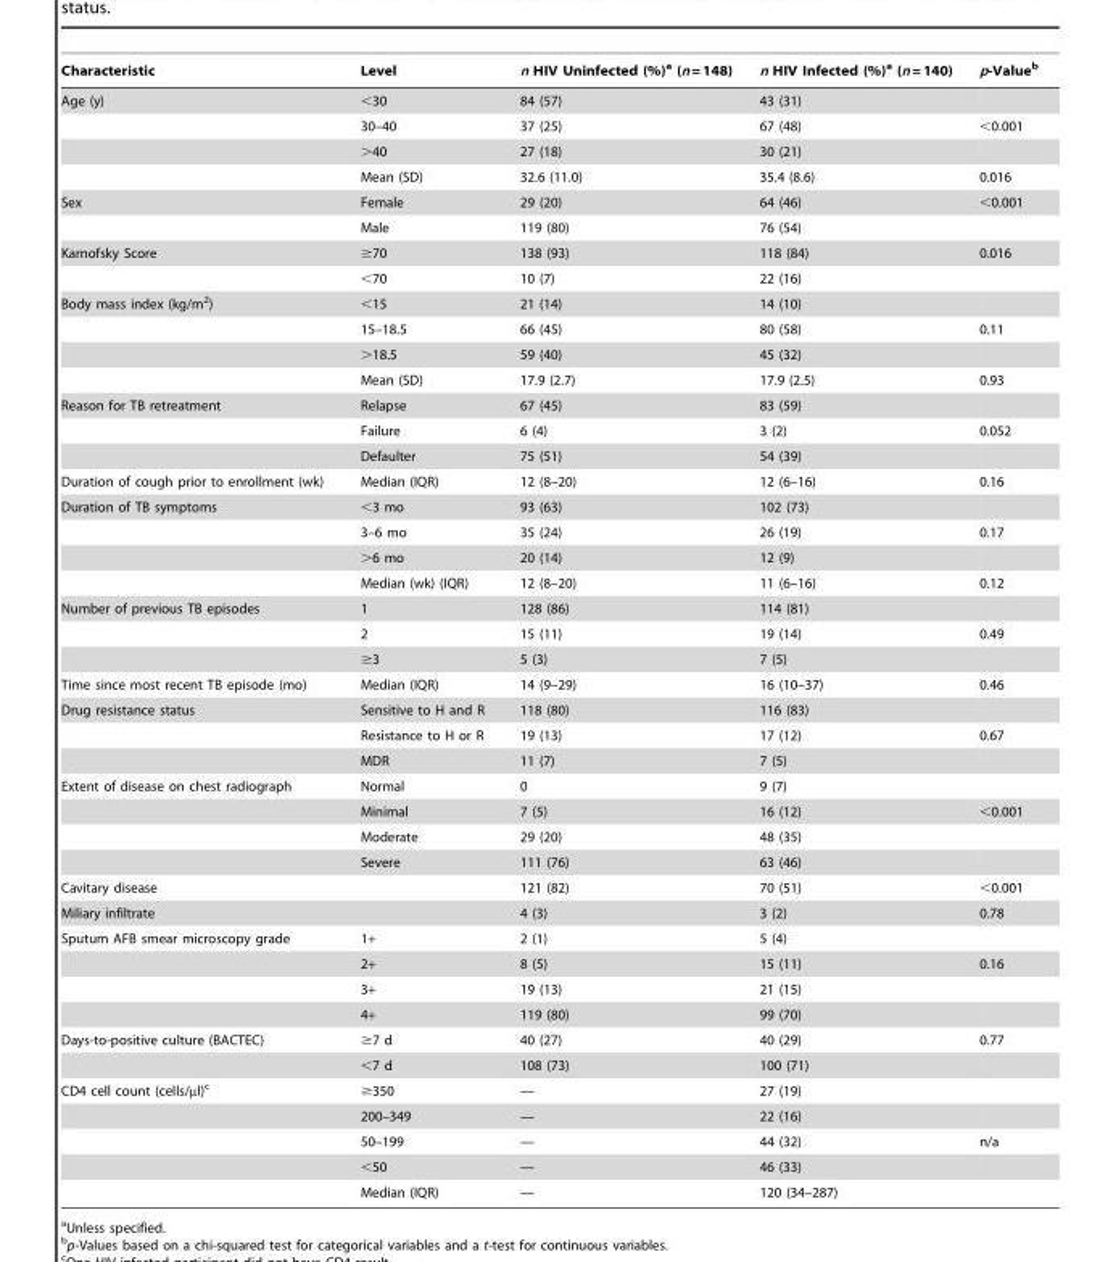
<table><thead><tr><td>Characteristic</td><td>Level</td><td>n HIV Uninfected (%)<sup>a</sup> (n = 148)</td><td>n HIV Infected (%)<sup>a</sup> (n = 140)</td><td>p-Value<sup>b</sup></td></tr></thead><tbody><tr><td rowspan="4">Age (y)</td><td>&lt;30</td><td>84 (57)</td><td>43 (31)</td><td></td></tr><tr><td>30–40</td><td>37 (25)</td><td>67 (48)</td><td>&lt;0.001</td></tr><tr><td>&gt;40</td><td>27 (18)</td><td>30 (21)</td><td></td></tr><tr><td>Mean (SD)</td><td>32.6 (11.0)</td><td>35.4 (8.6)</td><td>0.016</td></tr><tr><td rowspan="2">Sex</td><td>Female</td><td>29 (20)</td><td>64 (46)</td><td>&lt;0.001</td></tr><tr><td>Male</td><td>119 (80)</td><td>76 (54)</td><td></td></tr><tr><td rowspan="2">Karnofsky Score</td><td>≥70</td><td>138 (93)</td><td>118 (84)</td><td>0.016</td></tr><tr><td>&lt;70</td><td>10 (7)</td><td>22 (16)</td><td></td></tr><tr><td rowspan="4">Body mass index (kg/m<sup>2</sup>)</td><td>&lt;15</td><td>21 (14)</td><td>14 (10)</td><td></td></tr><tr><td>15–18.5</td><td>66 (45)</td><td>80 (58)</td><td>0.11</td></tr><tr><td>&gt;18.5</td><td>59 (40)</td><td>45 (32)</td><td></td></tr><tr><td>Mean (SD)</td><td>17.9 (2.7)</td><td>17.9 (2.5)</td><td>0.93</td></tr><tr><td rowspan="3">Reason for TB retreatment</td><td>Relapse</td><td>67 (45)</td><td>83 (59)</td><td></td></tr><tr><td>Failure</td><td>6 (4)</td><td>3 (2)</td><td>0.052</td></tr><tr><td>Defaulter</td><td>75 (51)</td><td>54 (39)</td><td></td></tr><tr><td>Duration of cough prior to enrollment (wk)</td><td>Median (IQR)</td><td>12 (8–20)</td><td>12 (6–16)</td><td>0.16</td></tr><tr><td rowspan="4">Duration of TB symptoms</td><td>&lt;3 mo</td><td>93 (63)</td><td>102 (73)</td><td></td></tr><tr><td>3–6 mo</td><td>35 (24)</td><td>26 (19)</td><td>0.17</td></tr><tr><td>&gt;6 mo</td><td>20 (14)</td><td>12 (9)</td><td></td></tr><tr><td>Median (wk) (IQR)</td><td>12 (8–20)</td><td>11 (6–16)</td><td>0.12</td></tr><tr><td rowspan="3">Number of previous TB episodes</td><td>1</td><td>128 (86)</td><td>114 (81)</td><td></td></tr><tr><td>2</td><td>15 (11)</td><td>19 (14)</td><td>0.49</td></tr><tr><td>≥3</td><td>5 (3)</td><td>7 (5)</td><td></td></tr><tr><td>Time since most recent TB episode (mo)</td><td>Median (IQR)</td><td>14 (9–29)</td><td>16 (10–37)</td><td>0.46</td></tr><tr><td rowspan="3">Drug resistance status</td><td>Sensitive to H and R</td><td>118 (80)</td><td>116 (83)</td><td></td></tr><tr><td>Resistance to H or R</td><td>19 (13)</td><td>17 (12)</td><td>0.67</td></tr><tr><td>MDR</td><td>11 (7)</td><td>7 (5)</td><td></td></tr><tr><td rowspan="4">Extent of disease on chest radiograph</td><td>Normal</td><td>0</td><td>9 (7)</td><td></td></tr><tr><td>Minimal</td><td>7 (5)</td><td>16 (12)</td><td>&lt;0.001</td></tr><tr><td>Moderate</td><td>29 (20)</td><td>48 (35)</td><td></td></tr><tr><td>Severe</td><td>111 (76)</td><td>63 (46)</td><td></td></tr><tr><td>Cavitary disease</td><td></td><td>121 (82)</td><td>70 (51)</td><td>&lt;0.001</td></tr><tr><td>Miliary infiltrate</td><td></td><td>4 (3)</td><td>3 (2)</td><td>0.78</td></tr><tr><td rowspan="4">Sputum AFB smear microscopy grade</td><td>1+</td><td>2 (1)</td><td>5 (4)</td><td></td></tr><tr><td>2+</td><td>8 (5)</td><td>15 (11)</td><td>0.16</td></tr><tr><td>3+</td><td>19 (13)</td><td>21 (15)</td><td></td></tr><tr><td>4+</td><td>119 (80)</td><td>99 (70)</td><td></td></tr><tr><td rowspan="2">Days-to-positive culture (BACTEC)</td><td>≥7 d</td><td>40 (27)</td><td>40 (29)</td><td>0.77</td></tr><tr><td>&lt;7 d</td><td>108 (73)</td><td>100 (71)</td><td></td></tr><tr><td rowspan="5">CD4 cell count (cells/µl)<sup>c</sup></td><td>≥350</td><td>—</td><td>27 (19)</td><td></td></tr><tr><td>200–349</td><td>—</td><td>22 (16)</td><td></td></tr><tr><td>50–199</td><td>—</td><td>44 (32)</td><td>n/a</td></tr><tr><td>&lt;50</td><td>—</td><td>46 (33)</td><td></td></tr><tr><td>Median (IQR)</td><td>—</td><td>120 (34–287)</td><td></td></tr></tbody></table>